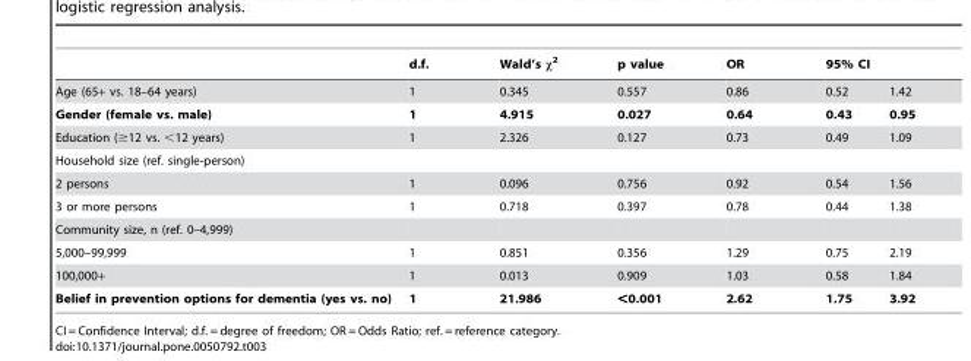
<table><thead><tr><td rowspan="2">Age (65+ vs. 18–64 years)</td><td rowspan="2">d.f. 1</td><td rowspan="2">Wald’s χ<sup>2</sup> 0.345</td><td rowspan="2">p value 0.557</td><td rowspan="2">OR 0.86</td><td colspan="2">95% CI</td></tr><tr><td>0.52</td><td>1.42</td></tr></thead><tbody><tr><td>Gender (female vs. male)</td><td>1</td><td>4.915</td><td>0.027</td><td>0.64</td><td>0.43</td><td>0.95</td></tr><tr><td>Education (≥12 vs. &lt;12 years)</td><td>1</td><td>2.326</td><td>0.127</td><td>0.73</td><td>0.49</td><td>1.09</td></tr><tr><td colspan="7">Household size (ref. single-person)</td></tr><tr><td>2 persons</td><td>1</td><td>0.096</td><td>0.756</td><td>0.92</td><td>0.54</td><td>1.56</td></tr><tr><td>3 or more persons</td><td>1</td><td>0.718</td><td>0.397</td><td>0.78</td><td>0.44</td><td>1.38</td></tr><tr><td colspan="7">Community size, n (ref. 0–4,999)</td></tr><tr><td>5,000–99,999</td><td>1</td><td>0.851</td><td>0.356</td><td>1.29</td><td>0.75</td><td>2.19</td></tr><tr><td>100,000+</td><td>1</td><td>0.013</td><td>0.909</td><td>1.03</td><td>0.58</td><td>1.84</td></tr><tr><td>Belief in prevention options for dementia (yes vs. no)</td><td>1</td><td>21.986</td><td>&lt;0.001</td><td>2.62</td><td>1.75</td><td>3.92</td></tr></tbody></table>